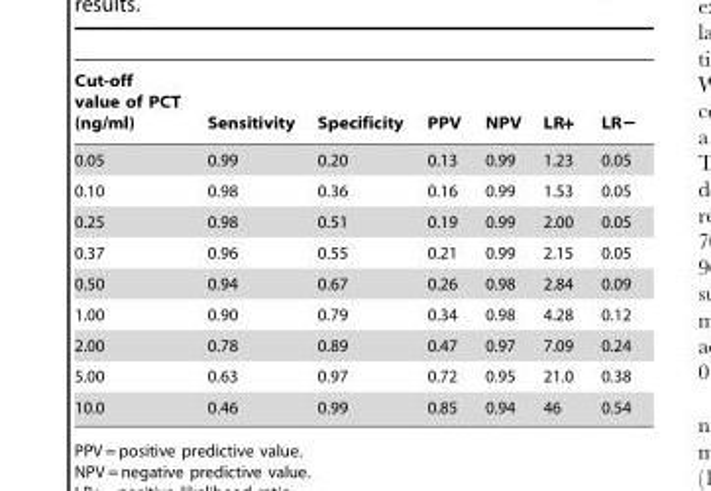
<table><thead><tr><td>Cut-off value of PCT (ng/ml)</td><td>Sensitivity</td><td>Specificity</td><td>PPV</td><td>NPV</td><td>LR+</td><td>LR−</td></tr></thead><tbody><tr><td>0.05</td><td>0.99</td><td>0.20</td><td>0.13</td><td>0.99</td><td>1.23</td><td>0.05</td></tr><tr><td>0.10</td><td>0.98</td><td>0.36</td><td>0.16</td><td>0.99</td><td>1.53</td><td>0.05</td></tr><tr><td>0.25</td><td>0.98</td><td>0.51</td><td>0.19</td><td>0.99</td><td>2.00</td><td>0.05</td></tr><tr><td>0.37</td><td>0.96</td><td>0.55</td><td>0.21</td><td>0.99</td><td>2.15</td><td>0.05</td></tr><tr><td>0.50</td><td>0.94</td><td>0.67</td><td>0.26</td><td>0.98</td><td>2.84</td><td>0.09</td></tr><tr><td>1.00</td><td>0.90</td><td>0.79</td><td>0.34</td><td>0.98</td><td>4.28</td><td>0.12</td></tr><tr><td>2.00</td><td>0.78</td><td>0.89</td><td>0.47</td><td>0.97</td><td>7.09</td><td>0.24</td></tr><tr><td>5.00</td><td>0.63</td><td>0.97</td><td>0.72</td><td>0.95</td><td>21.0</td><td>0.38</td></tr><tr><td>10.0</td><td>0.46</td><td>0.99</td><td>0.85</td><td>0.94</td><td>46</td><td>0.54</td></tr></tbody></table>